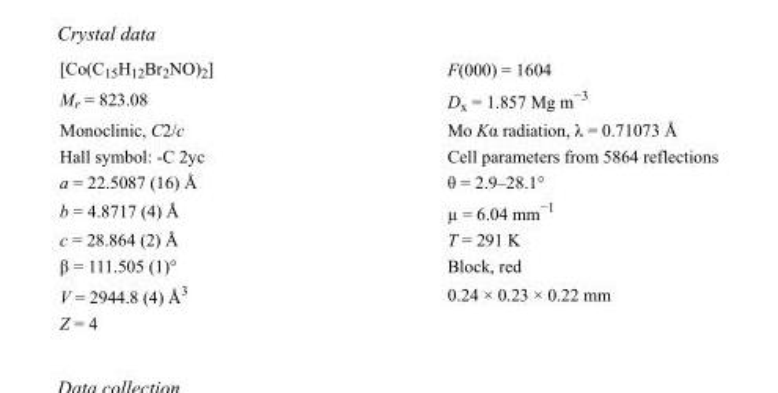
<table><tbody><tr><td>[Co(C<sub>15</sub>H<sub>12</sub>Br<sub>2</sub>NO)<sub>2</sub>]</td><td>F(000) = 1604</td></tr><tr><td>M<sub>r</sub> = 823.08</td><td>D<sub>x</sub> = 1.857 Mg m<sup>−3</sup></td></tr><tr><td>Monoclinic, C2/c</td><td>Mo Kα radiation, λ = 0.71073 Å</td></tr><tr><td>Hall symbol: -C 2yc</td><td>Cell parameters from 5864 reflections</td></tr><tr><td>a = 22.5087 (16) Å</td><td>θ = 2.9–28.1°</td></tr><tr><td>b = 4.8717 (4) Å</td><td>µ = 6.04 mm<sup>−1</sup></td></tr><tr><td>c = 28.864 (2) Å</td><td>T = 291 K</td></tr><tr><td>β = 111.505 (1)°</td><td>Block, red</td></tr><tr><td>V = 2944.8 (4) Å<sup>3</sup></td><td>0.24 × 0.23 × 0.22 mm</td></tr><tr><td>Z = 4</td><td></td></tr></tbody></table>